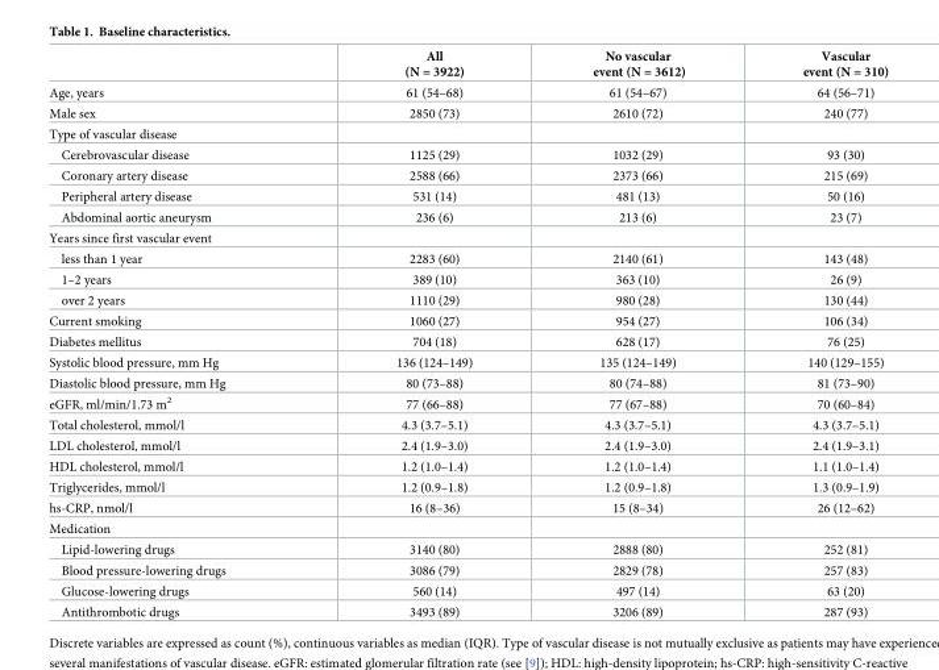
<table><thead><tr><td></td><td>All (N = 3922)</td><td>No vascular event (N = 3612)</td><td>Vascular event (N = 310)</td></tr></thead><tbody><tr><td>Age, years</td><td>61 (54–68)</td><td>61 (54–67)</td><td>64 (56–71)</td></tr><tr><td>Male sex</td><td>2850 (73)</td><td>2610 (72)</td><td>240 (77)</td></tr><tr><td colspan="4">Type of vascular disease</td></tr><tr><td>Cerebrovascular disease</td><td>1125 (29)</td><td>1032 (29)</td><td>93 (30)</td></tr><tr><td>Coronary artery disease</td><td>2588 (66)</td><td>2373 (66)</td><td>215 (69)</td></tr><tr><td>Peripheral artery disease</td><td>531 (14)</td><td>481 (13)</td><td>50 (16)</td></tr><tr><td>Abdominal aortic aneurysm</td><td>236 (6)</td><td>213 (6)</td><td>23 (7)</td></tr><tr><td colspan="4">Years since first vascular event</td></tr><tr><td>less than 1 year</td><td>2283 (60)</td><td>2140 (61)</td><td>143 (48)</td></tr><tr><td>1–2 years</td><td>389 (10)</td><td>363 (10)</td><td>26 (9)</td></tr><tr><td>over 2 years</td><td>1110 (29)</td><td>980 (28)</td><td>130 (44)</td></tr><tr><td>Current smoking</td><td>1060 (27)</td><td>954 (27)</td><td>106 (34)</td></tr><tr><td>Diabetes mellitus</td><td>704 (18)</td><td>628 (17)</td><td>76 (25)</td></tr><tr><td>Systolic blood pressure, mm Hg</td><td>136 (124–149)</td><td>135 (124–149)</td><td>140 (129–155)</td></tr><tr><td>Diastolic blood pressure, mm Hg</td><td>80 (73–88)</td><td>80 (74–88)</td><td>81 (73–90)</td></tr><tr><td>eGFR, ml/min/1.73 m<sup>2</sup></td><td>77 (66–88)</td><td>77 (67–88)</td><td>70 (60–84)</td></tr><tr><td>Total cholesterol, mmol/l</td><td>4.3 (3.7–5.1)</td><td>4.3 (3.7–5.1)</td><td>4.3 (3.7–5.1)</td></tr><tr><td>LDL cholesterol, mmol/l</td><td>2.4 (1.9–3.0)</td><td>2.4 (1.9–3.0)</td><td>2.4 (1.9–3.1)</td></tr><tr><td>HDL cholesterol, mmol/l</td><td>1.2 (1.0–1.4)</td><td>1.2 (1.0–1.4)</td><td>1.1 (1.0–1.4)</td></tr><tr><td>Triglycerides, mmol/l</td><td>1.2 (0.9–1.8)</td><td>1.2 (0.9–1.8)</td><td>1.3 (0.9–1.9)</td></tr><tr><td>hs-CRP, nmol/l</td><td>16 (8–36)</td><td>15 (8–34)</td><td>26 (12–62)</td></tr><tr><td colspan="4">Medication</td></tr><tr><td>Lipid-lowering drugs</td><td>3140 (80)</td><td>2888 (80)</td><td>252 (81)</td></tr><tr><td>Blood pressure-lowering drugs</td><td>3086 (79)</td><td>2829 (78)</td><td>257 (83)</td></tr><tr><td>Glucose-lowering drugs</td><td>560 (14)</td><td>497 (14)</td><td>63 (20)</td></tr><tr><td>Antithrombotic drugs</td><td>3493 (89)</td><td>3206 (89)</td><td>287 (93)</td></tr></tbody></table>